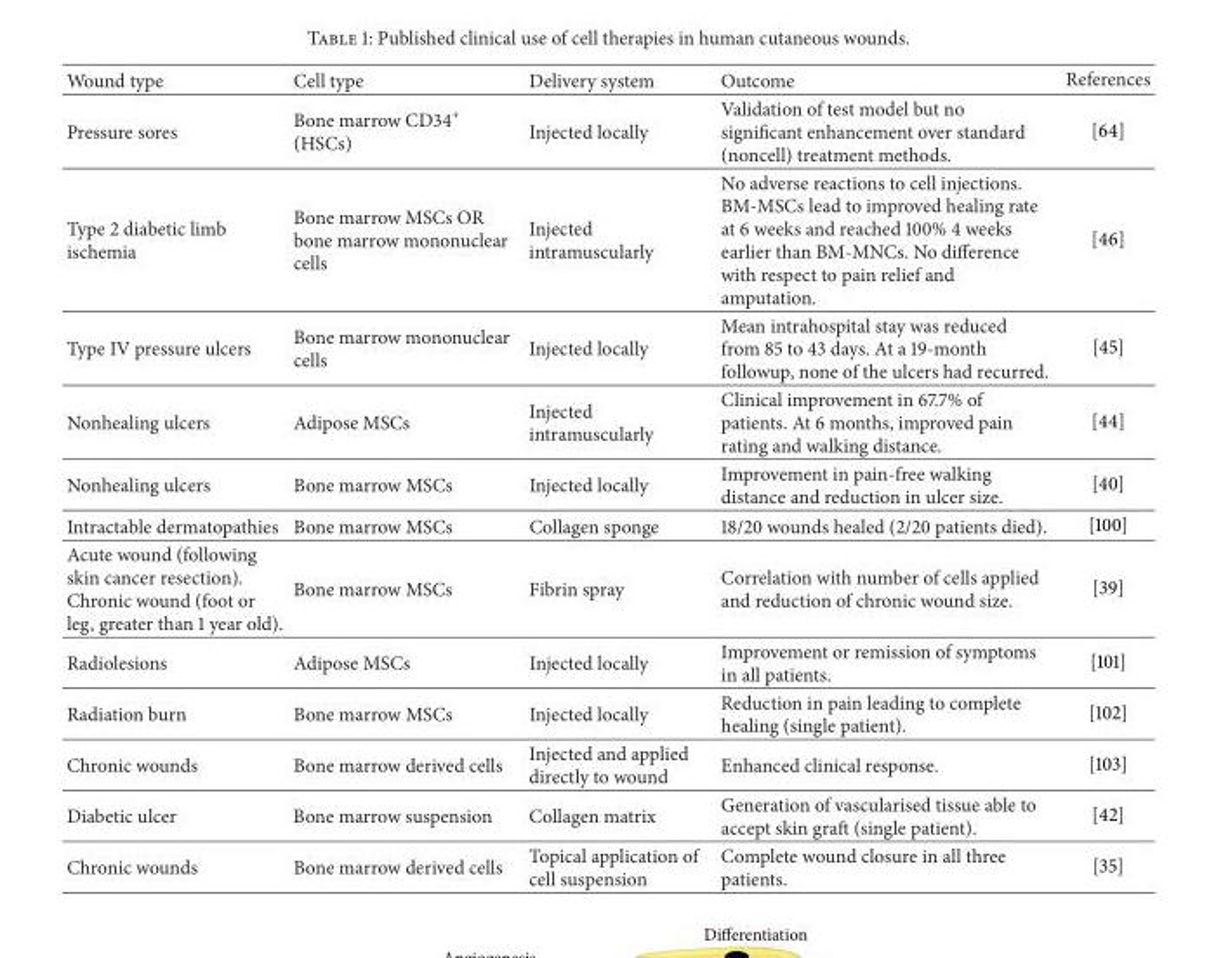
<table><thead><tr><td>Wound type</td><td>Cell type</td><td>Delivery system</td><td>Outcome</td><td>References</td></tr></thead><tbody><tr><td>Pressure sores</td><td>Bone marrow CD34<sup>+</sup> (HSCs)</td><td>Injected locally</td><td>Validation of test model but no significant enhancement over standard (noncell) treatment methods.</td><td>[64]</td></tr><tr><td>Type 2 diabetic limb ischemia</td><td>Bone marrow MSCs OR bone marrow mononuclear cells</td><td>Injected intramuscularly</td><td>No adverse reactions to cell injections. BM-MSCs lead to improved healing rate at 6 weeks and reached 100% 4 weeks earlier than BM-MNCs. No difference with respect to pain relief and amputation.</td><td>[46]</td></tr><tr><td>Type IV pressure ulcers</td><td>Bone marrow mononuclear cells</td><td>Injected locally</td><td>Mean intrahospital stay was reduced from 85 to 43 days. At a 19-month followup, none of the ulcers had recurred.</td><td>[45]</td></tr><tr><td>Nonhealing ulcers</td><td>Adipose MSCs</td><td>Injected intramuscularly</td><td>Clinical improvement in 67.7% of patients. At 6 months, improved pain rating and walking distance.</td><td>[44]</td></tr><tr><td>Nonhealing ulcers</td><td>Bone marrow MSCs</td><td>Injected locally</td><td>Improvement in pain-free walking distance and reduction in ulcer size.</td><td>[40]</td></tr><tr><td>Intractable dermatopathies</td><td>Bone marrow MSCs</td><td>Collagen sponge</td><td>18/20 wounds healed (2/20 patients died).</td><td>[100]</td></tr><tr><td>Acute wound (following skin cancer resection). Chronic wound (foot or leg, greater than 1 year old).</td><td>Bone marrow MSCs</td><td>Fibrin spray</td><td>Correlation with number of cells applied and reduction of chronic wound size.</td><td>[39]</td></tr><tr><td>Radiolesions</td><td>Adipose MSCs</td><td>Injected locally</td><td>Improvement or remission of symptoms in all patients.</td><td>[101]</td></tr><tr><td>Radiation burn</td><td>Bone marrow MSCs</td><td>Injected locally</td><td>Reduction in pain leading to complete healing (single patient).</td><td>[102]</td></tr><tr><td>Chronic wounds</td><td>Bone marrow derived cells</td><td>Injected and applied directly to wound</td><td>Enhanced clinical response.</td><td>[103]</td></tr><tr><td>Diabetic ulcer</td><td>Bone marrow suspension</td><td>Collagen matrix</td><td>Generation of vascularised tissue able to accept skin graft (single patient).</td><td>[42]</td></tr><tr><td>Chronic wounds</td><td>Bone marrow derived cells</td><td>Topical application of cell suspension</td><td>Complete wound closure in all three patients.</td><td>[35]</td></tr></tbody></table>